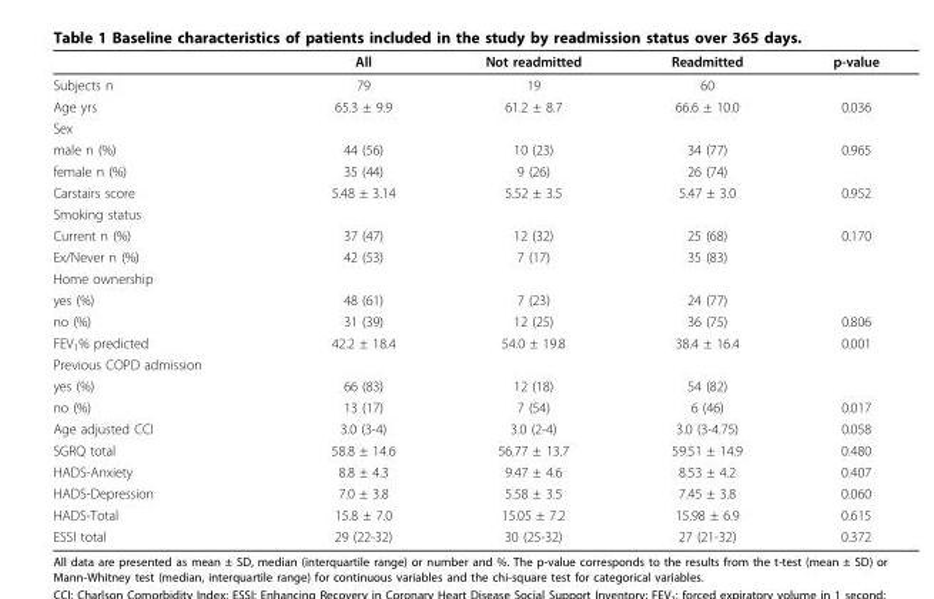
<table><thead><tr><td></td><td>All</td><td>Not readmitted</td><td>Readmitted</td><td>p-value</td></tr></thead><tbody><tr><td>Subjects n</td><td>79</td><td>19</td><td>60</td><td></td></tr><tr><td>Age yrs</td><td>65.3 ± 9.9</td><td>61.2 ± 8.7</td><td>66.6 ± 10.0</td><td>0.036</td></tr><tr><td colspan="5">Sex</td></tr><tr><td>male n (%)</td><td>44 (56)</td><td>10 (23)</td><td>34 (77)</td><td>0.965</td></tr><tr><td>female n (%)</td><td>35 (44)</td><td>9 (26)</td><td>26 (74)</td><td></td></tr><tr><td>Carstairs score</td><td>5.48 ± 3.14</td><td>5.52 ± 3.5</td><td>5.47 ± 3.0</td><td>0.952</td></tr><tr><td colspan="5">Smoking status</td></tr><tr><td>Current n (%)</td><td>37 (47)</td><td>12 (32)</td><td>25 (68)</td><td>0.170</td></tr><tr><td>Ex/Never n (%)</td><td>42 (53)</td><td>7 (17)</td><td>35 (83)</td><td></td></tr><tr><td colspan="5">Home ownership</td></tr><tr><td>yes (%)</td><td>48 (61)</td><td>7 (23)</td><td>24 (77)</td><td></td></tr><tr><td>no (%)</td><td>31 (39)</td><td>12 (25)</td><td>36 (75)</td><td>0.806</td></tr><tr><td>FEV<sub>1</sub>% predicted</td><td>42.2 ± 18.4</td><td>54.0 ± 19.8</td><td>38.4 ± 16.4</td><td>0.001</td></tr><tr><td colspan="5">Previous COPD admission</td></tr><tr><td>yes (%)</td><td>66 (83)</td><td>12 (18)</td><td>54 (82)</td><td></td></tr><tr><td>no (%)</td><td>13 (17)</td><td>7 (54)</td><td>6 (46)</td><td>0.017</td></tr><tr><td>Age adjusted CCI</td><td>3.0 (3-4)</td><td>3.0 (2-4)</td><td>3.0 (3-4.75)</td><td>0.058</td></tr><tr><td>SGRQ total</td><td>58.8 ± 14.6</td><td>56.77 ± 13.7</td><td>59.51 ± 14.9</td><td>0.480</td></tr><tr><td>HADS-Anxiety</td><td>8.8 ± 4.3</td><td>9.47 ± 4.6</td><td>8.53 ± 4.2</td><td>0.407</td></tr><tr><td>HADS-Depression</td><td>7.0 ± 3.8</td><td>5.58 ± 3.5</td><td>7.45 ± 3.8</td><td>0.060</td></tr><tr><td>HADS-Total</td><td>15.8 ± 7.0</td><td>15.05 ± 7.2</td><td>15.98 ± 6.9</td><td>0.615</td></tr><tr><td>ESSI total</td><td>29 (22-32)</td><td>30 (25-32)</td><td>27 (21-32)</td><td>0.372</td></tr></tbody></table>